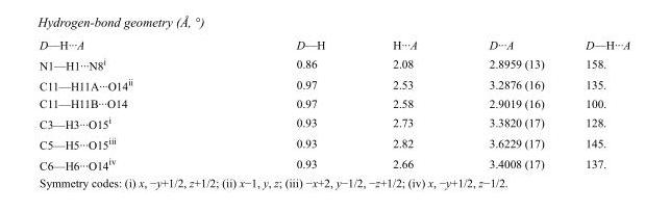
<table><tbody><tr><td>D—H···A</td><td>D—H</td><td>H···A</td><td>D···A</td><td>D—H···A</td></tr><tr><td>N1—H1···N8<sup>i</sup></td><td>0.86</td><td>2.08</td><td>2.8959 (13)</td><td>158.</td></tr><tr><td>C11—H11A···O14<sup>ii</sup></td><td>0.97</td><td>2.53</td><td>3.2876 (16)</td><td>135.</td></tr><tr><td>C11—H11B···O14</td><td>0.97</td><td>2.58</td><td>2.9019 (16)</td><td>100.</td></tr><tr><td>C3—H3···O15<sup>i</sup></td><td>0.93</td><td>2.73</td><td>3.3820 (17)</td><td>128.</td></tr><tr><td>C5—H5···O15<sup>iii</sup></td><td>0.93</td><td>2.82</td><td>3.6229 (17)</td><td>145.</td></tr><tr><td>C6—H6···O14<sup>iv</sup></td><td>0.93</td><td>2.66</td><td>3.4008 (17)</td><td>137.</td></tr></tbody></table>